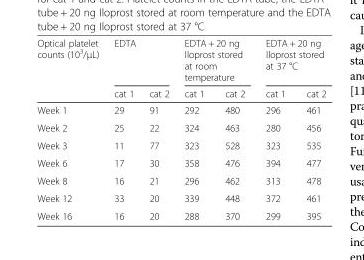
<table><thead><tr><td rowspan="2">Optical platelet counts (10<sup>3</sup>/μL)</td><td colspan="2">EDTA</td><td colspan="2">EDTA + 20 ng Iloprost stored at room temperature</td><td colspan="2">EDTA + 20 ng Iloprost stored at 37 °C</td></tr><tr><td>cat 1</td><td>cat 2</td><td>cat 1</td><td>cat 2</td><td>cat 1</td><td>cat 2</td></tr></thead><tbody><tr><td>Week 1</td><td>29</td><td>91</td><td>292</td><td>480</td><td>296</td><td>461</td></tr><tr><td>Week 2</td><td>25</td><td>22</td><td>324</td><td>463</td><td>280</td><td>456</td></tr><tr><td>Week 3</td><td>11</td><td>77</td><td>323</td><td>528</td><td>323</td><td>535</td></tr><tr><td>Week 6</td><td>17</td><td>30</td><td>358</td><td>476</td><td>394</td><td>477</td></tr><tr><td>Week 8</td><td>16</td><td>21</td><td>296</td><td>462</td><td>313</td><td>478</td></tr><tr><td>Week 12</td><td>33</td><td>20</td><td>339</td><td>448</td><td>372</td><td>461</td></tr><tr><td>Week 16</td><td>16</td><td>20</td><td>288</td><td>370</td><td>299</td><td>395</td></tr></tbody></table>